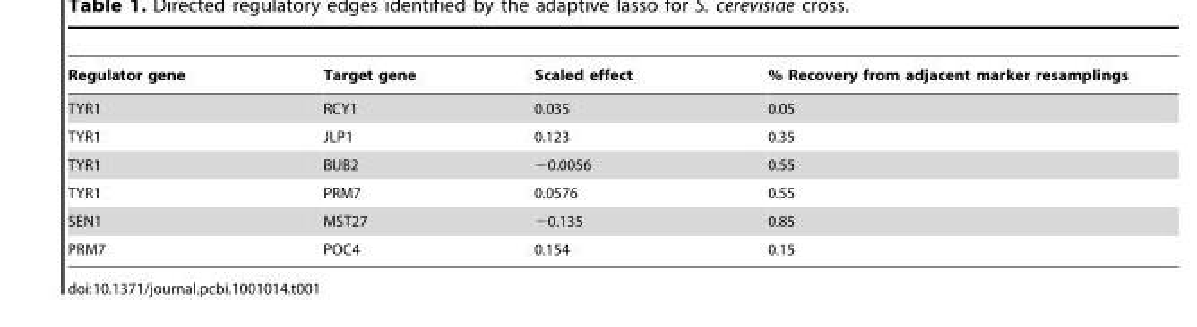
<table><thead><tr><td>Regulator gene</td><td>Target gene</td><td>Scaled effect</td><td>% Recovery from adjacent marker resamplings</td></tr></thead><tbody><tr><td>TYR1</td><td>RCY1</td><td>0.035</td><td>0.05</td></tr><tr><td>TYR1</td><td>JLP1</td><td>0.123</td><td>0.35</td></tr><tr><td>TYR1</td><td>BUB2</td><td>−0.0056</td><td>0.55</td></tr><tr><td>TYR1</td><td>PRM7</td><td>0.0576</td><td>0.55</td></tr><tr><td>SEN1</td><td>MST27</td><td>−0.135</td><td>0.85</td></tr><tr><td>PRM7</td><td>POC4</td><td>0.154</td><td>0.15</td></tr></tbody></table>